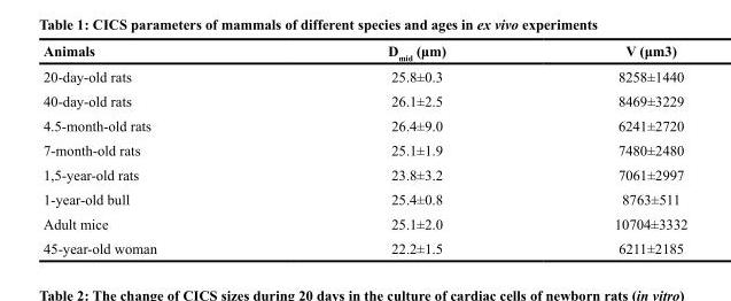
<table><thead><tr><td>Animals</td><td>D<sub>mid</sub> (μm)</td><td>V (μm3)</td></tr></thead><tbody><tr><td>20-day-old rats</td><td>25.8±0.3</td><td>8258±1440</td></tr><tr><td>40-day-old rats</td><td>26.1±2.5</td><td>8469±3229</td></tr><tr><td>4.5-month-old rats</td><td>26.4±9.0</td><td>6241±2720</td></tr><tr><td>7-month-old rats</td><td>25.1±1.9</td><td>7480±2480</td></tr><tr><td>1,5-year-old rats</td><td>23.8±3.2</td><td>7061±2997</td></tr><tr><td>1-year-old bull</td><td>25.4±0.8</td><td>8763±511</td></tr><tr><td>Adult mice</td><td>25.1±2.0</td><td>10704±3332</td></tr><tr><td>45-year-old woman</td><td>22.2±1.5</td><td>6211±2185</td></tr></tbody></table>